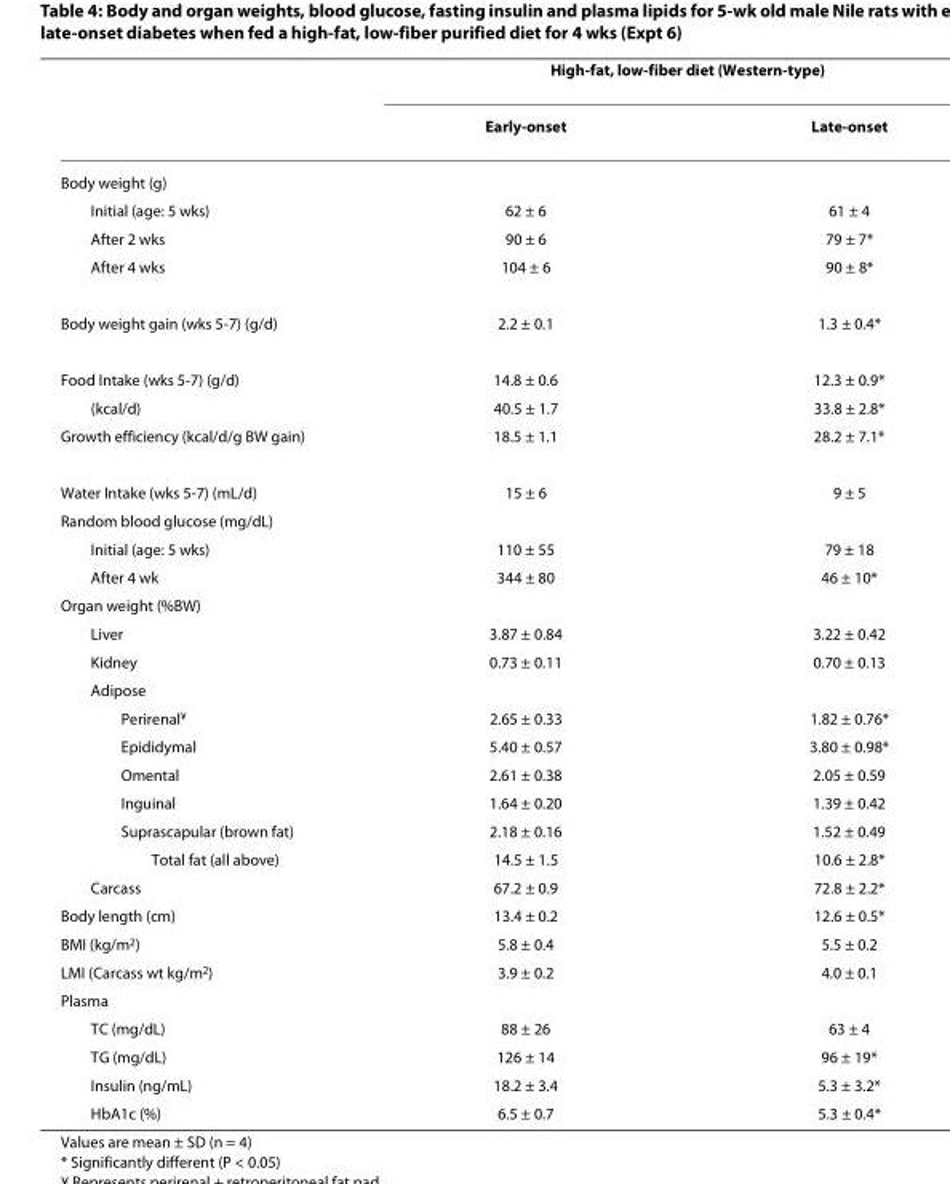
<table><thead><tr><td rowspan="2"></td><td colspan="2">High-fat, low-fiber diet (Western-type)</td></tr><tr><td>Early-onset</td><td>Late-onset</td></tr></thead><tbody><tr><td colspan="3">Body weight (g)</td></tr><tr><td>Initial (age: 5 wks)</td><td>62 ± 6</td><td>61 ± 4</td></tr><tr><td>After 2 wks</td><td>90 ± 6</td><td>79 ± 7*</td></tr><tr><td>After 4 wks</td><td>104 ± 6</td><td>90 ± 8*</td></tr><tr><td>Body weight gain (wks 5-7) (g/d)</td><td>2.2 ± 0.1</td><td>1.3 ± 0.4*</td></tr><tr><td>Food Intake (wks 5-7) (g/d)</td><td>14.8 ± 0.6</td><td>12.3 ± 0.9*</td></tr><tr><td>(kcal/d)</td><td>40.5 ± 1.7</td><td>33.8 ± 2.8*</td></tr><tr><td>Growth efficiency (kcal/d/g BW gain)</td><td>18.5 ± 1.1</td><td>28.2 ± 7.1*</td></tr><tr><td>Water Intake (wks 5-7) (mL/d)</td><td>15 ± 6</td><td>9 ± 5</td></tr><tr><td colspan="3">Random blood glucose (mg/dL)</td></tr><tr><td>Initial (age: 5 wks)</td><td>110 ± 55</td><td>79 ± 18</td></tr><tr><td>After 4 wk</td><td>344 ± 80</td><td>46 ± 10*</td></tr><tr><td colspan="3">Organ weight (%BW)</td></tr><tr><td>Liver</td><td>3.87 ± 0.84</td><td>3.22 ± 0.42</td></tr><tr><td>Kidney</td><td>0.73 ± 0.11</td><td>0.70 ± 0.13</td></tr><tr><td colspan="3">Adipose</td></tr><tr><td>Perirenal<sup>¥</sup></td><td>2.65 ± 0.33</td><td>1.82 ± 0.76*</td></tr><tr><td>Epididymal</td><td>5.40 ± 0.57</td><td>3.80 ± 0.98*</td></tr><tr><td>Omental</td><td>2.61 ± 0.38</td><td>2.05 ± 0.59</td></tr><tr><td>Inguinal</td><td>1.64 ± 0.20</td><td>1.39 ± 0.42</td></tr><tr><td>Suprascapular (brown fat)</td><td>2.18 ± 0.16</td><td>1.52 ± 0.49</td></tr><tr><td>Total fat (all above)</td><td>14.5 ± 1.5</td><td>10.6 ± 2.8*</td></tr><tr><td>Carcass</td><td>67.2 ± 0.9</td><td>72.8 ± 2.2*</td></tr><tr><td>Body length (cm)</td><td>13.4 ± 0.2</td><td>12.6 ± 0.5*</td></tr><tr><td>BMI (kg/m<sup>2</sup>)</td><td>5.8 ± 0.4</td><td>5.5 ± 0.2</td></tr><tr><td>LMI (Carcass wt kg/m<sup>2</sup>)</td><td>3.9 ± 0.2</td><td>4.0 ± 0.1</td></tr><tr><td colspan="3">Plasma</td></tr><tr><td>TC (mg/dL)</td><td>88 ± 26</td><td>63 ± 4</td></tr><tr><td>TG (mg/dL)</td><td>126 ± 14</td><td>96 ± 19*</td></tr><tr><td>Insulin (ng/mL)</td><td>18.2 ± 3.4</td><td>5.3 ± 3.2*</td></tr><tr><td>HbA1c (%)</td><td>6.5 ± 0.7</td><td>5.3 ± 0.4*</td></tr></tbody></table>